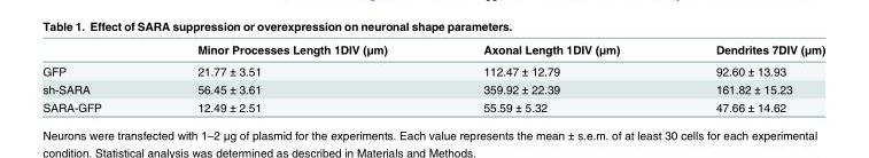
<table><thead><tr><td></td><td>Minor Processes Length 1DIV (μm)</td><td>Axonal Length 1DIV (μm)</td><td>Dendrites 7DIV (μm)</td></tr></thead><tbody><tr><td>GFP</td><td>21.77 ± 3.51</td><td>112.47 ± 12.79</td><td>92.60 ± 13.93</td></tr><tr><td>sh-SARA</td><td>56.45 ± 3.61</td><td>359.92 ± 22.39</td><td>161.82 ± 15.23</td></tr><tr><td>SARA-GFP</td><td>12.49 ± 2.51</td><td>55.59 ± 5.32</td><td>47.66 ± 14.62</td></tr></tbody></table>